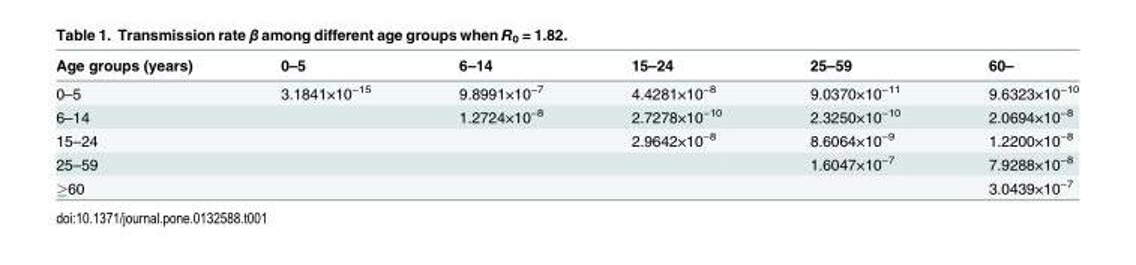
<table><thead><tr><td>Age groups (years)</td><td>0–5</td><td>6–14</td><td>15–24</td><td>25–59</td><td>60–</td></tr></thead><tbody><tr><td>0–5</td><td>3.1841×10<sup>−15</sup></td><td>9.8991×10<sup>−7</sup></td><td>4.4281×10<sup>−8</sup></td><td>9.0370×10<sup>−11</sup></td><td>9.6323×10<sup>−10</sup></td></tr><tr><td>6–14</td><td></td><td>1.2724×10<sup>−8</sup></td><td>2.7278×10<sup>−10</sup></td><td>2.3250×10<sup>−10</sup></td><td>2.0694×10<sup>−8</sup></td></tr><tr><td>15–24</td><td></td><td></td><td>2.9642×10<sup>−8</sup></td><td>8.6064×10<sup>−9</sup></td><td>1.2200×10<sup>−8</sup></td></tr><tr><td>25–59</td><td></td><td></td><td></td><td>1.6047×10<sup>−7</sup></td><td>7.9288×10<sup>−8</sup></td></tr><tr><td>≥60</td><td></td><td></td><td></td><td></td><td>3.0439×10<sup>−7</sup></td></tr></tbody></table>